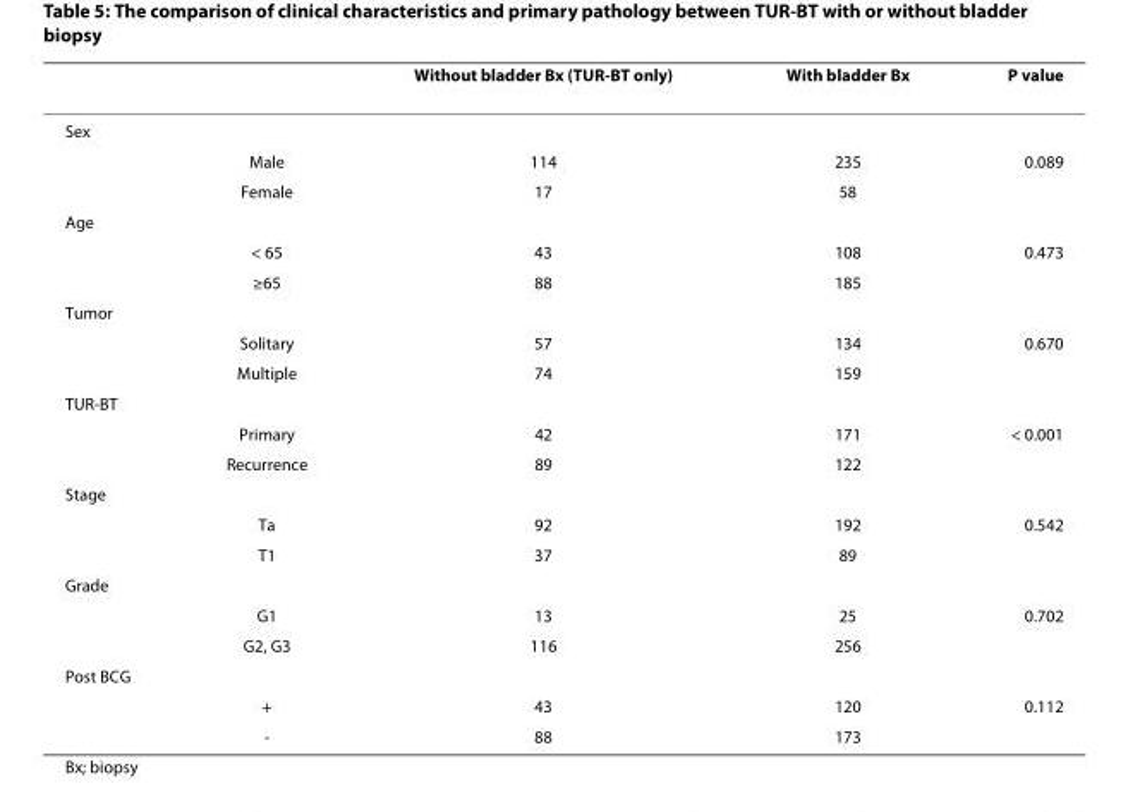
<table><thead><tr><td></td><td></td><td>Without bladder Bx (TUR-BT only)</td><td>With bladder Bx</td><td>P value</td></tr></thead><tbody><tr><td colspan="5">Sex</td></tr><tr><td></td><td>Male</td><td>114</td><td>235</td><td>0.089</td></tr><tr><td></td><td>Female</td><td>17</td><td>58</td><td></td></tr><tr><td colspan="5">Age</td></tr><tr><td></td><td>&lt; 65</td><td>43</td><td>108</td><td>0.473</td></tr><tr><td></td><td>≥65</td><td>88</td><td>185</td><td></td></tr><tr><td colspan="5">Tumor</td></tr><tr><td></td><td>Solitary</td><td>57</td><td>134</td><td>0.670</td></tr><tr><td></td><td>Multiple</td><td>74</td><td>159</td><td></td></tr><tr><td colspan="5">TUR-BT</td></tr><tr><td></td><td>Primary</td><td>42</td><td>171</td><td>&lt; 0.001</td></tr><tr><td></td><td>Recurrence</td><td>89</td><td>122</td><td></td></tr><tr><td colspan="5">Stage</td></tr><tr><td></td><td>Ta</td><td>92</td><td>192</td><td>0.542</td></tr><tr><td></td><td>T1</td><td>37</td><td>89</td><td></td></tr><tr><td colspan="5">Grade</td></tr><tr><td></td><td>G1</td><td>13</td><td>25</td><td>0.702</td></tr><tr><td></td><td>G2, G3</td><td>116</td><td>256</td><td></td></tr><tr><td colspan="5">Post BCG</td></tr><tr><td></td><td>+</td><td>43</td><td>120</td><td>0.112</td></tr><tr><td></td><td>-</td><td>88</td><td>173</td><td></td></tr></tbody></table>